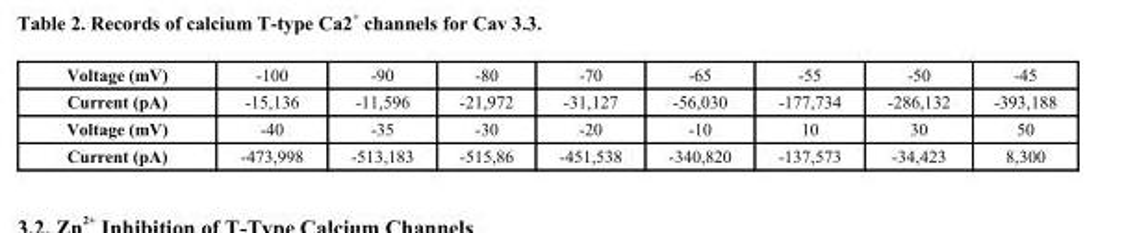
<table><tbody><tr><td>Voltage (mV)</td><td>-100</td><td>-90</td><td>-80</td><td>-70</td><td>-65</td><td>-55</td><td>-50</td><td>-45</td></tr><tr><td>Current (pA)</td><td>-15,136</td><td>-11,596</td><td>-21,972</td><td>-31,127</td><td>-56,030</td><td>-177,734</td><td>-286,132</td><td>-393,188</td></tr><tr><td>Voltage (mV)</td><td>-40</td><td>-35</td><td>-30</td><td>-20</td><td>-10</td><td>10</td><td>30</td><td>50</td></tr><tr><td>Current (pA)</td><td>-473,998</td><td>-513,183</td><td>-515,86</td><td>-451,538</td><td>-340,820</td><td>-137,573</td><td>-34,423</td><td>8,300</td></tr></tbody></table>